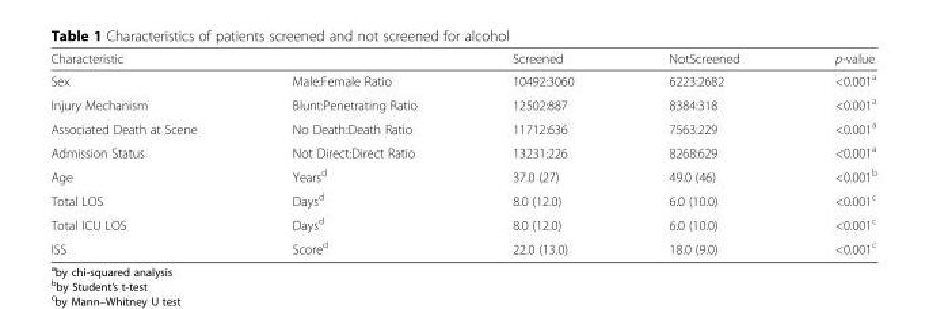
<table><thead><tr><td>Characteristic</td><td></td><td>Screened</td><td>NotScreened</td><td>p-value</td></tr></thead><tbody><tr><td>Sex</td><td>Male:Female Ratio</td><td>10492:3060</td><td>6223:2682</td><td>&lt;0.001<sup>a</sup></td></tr><tr><td>Injury Mechanism</td><td>Blunt:Penetrating Ratio</td><td>12502:887</td><td>8384:318</td><td>&lt;0.001<sup>a</sup></td></tr><tr><td>Associated Death at Scene</td><td>No Death:Death Ratio</td><td>11712:636</td><td>7563:229</td><td>&lt;0.001<sup>a</sup></td></tr><tr><td>Admission Status</td><td>Not Direct:Direct Ratio</td><td>13231:226</td><td>8268:629</td><td>&lt;0.001<sup>a</sup></td></tr><tr><td>Age</td><td>Years<sup>d</sup></td><td>37.0 (27)</td><td>49.0 (46)</td><td>&lt;0.001<sup>b</sup></td></tr><tr><td>Total LOS</td><td>Days<sup>d</sup></td><td>8.0 (12.0)</td><td>6.0 (10.0)</td><td>&lt;0.001<sup>c</sup></td></tr><tr><td>Total ICU LOS</td><td>Days<sup>d</sup></td><td>8.0 (12.0)</td><td>6.0 (10.0)</td><td>&lt;0.001<sup>c</sup></td></tr><tr><td>ISS</td><td>Score<sup>d</sup></td><td>22.0 (13.0)</td><td>18.0 (9.0)</td><td>&lt;0.001<sup>c</sup></td></tr></tbody></table>